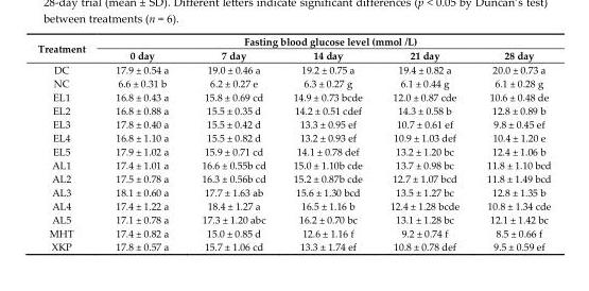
<table><thead><tr><td rowspan="2">Treatment</td><td colspan="5">Fasting blood glucose level (mmol /L)</td></tr><tr><td>0 day</td><td>7 day</td><td>14 day</td><td>21 day</td><td>28 day</td></tr></thead><tbody><tr><td>DC</td><td>17.9 ± 0.54 a</td><td>19.0 ± 0.46 a</td><td>19.2 ± 0.75 a</td><td>19.4 ± 0.82 a</td><td>20.0 ± 0.73 a</td></tr><tr><td>NC</td><td>6.6 ± 0.31 b</td><td>6.2 ± 0.27 e</td><td>6.3 ± 0.27 g</td><td>6.1 ± 0.44 g</td><td>6.1 ± 0.28 g</td></tr><tr><td>EL1</td><td>16.8 ± 0.43 a</td><td>15.8 ± 0.69 cd</td><td>14.9 ± 0.73 bcde</td><td>12.0 ± 0.87 cde</td><td>10.6 ± 0.48 de</td></tr><tr><td>EL2</td><td>16.8 ± 0.88 a</td><td>15.5 ± 0.35 d</td><td>14.2 ± 0.51 cdef</td><td>14.3 ± 0.58 b</td><td>12.8 ± 0.89 b</td></tr><tr><td>EL3</td><td>17.8 ± 0.40 a</td><td>15.5 ± 0.42 d</td><td>13.3 ± 0.95 ef</td><td>10.7 ± 0.61 ef</td><td>9.8 ± 0.45 ef</td></tr><tr><td>EL4</td><td>16.8 ± 1.10 a</td><td>15.5 ± 0.82 d</td><td>13.2 ± 0.93 ef</td><td>10.9 ± 1.03 def</td><td>10.4 ± 1.20 e</td></tr><tr><td>EL5</td><td>17.9 ± 1.02 a</td><td>15.9 ± 0.71 cd</td><td>14.1 ± 0.78 def</td><td>13.2 ± 1.20 bc</td><td>12.4 ± 1.06 b</td></tr><tr><td>AL1</td><td>17.4 ± 1.01 a</td><td>16.6 ± 0.55b cd</td><td>15.0 ± 1.10b cde</td><td>13.7 ± 0.98 bc</td><td>11.8 ± 1.10 bcd</td></tr><tr><td>AL2</td><td>17.5 ± 0.78 a</td><td>16.3 ± 0.56b cd</td><td>15.2 ± 0.87b cde</td><td>12.7 ± 1.07 bcd</td><td>11.8 ± 1.49 bcd</td></tr><tr><td>AL3</td><td>18.1 ± 0.60 a</td><td>17.7 ± 1.63 ab</td><td>15.6 ± 1.30 bcd</td><td>13.5 ± 1.27 bc</td><td>12.8 ± 1.35 b</td></tr><tr><td>AL4</td><td>17.4 ± 1.22 a</td><td>18.4 ± 1.27 a</td><td>16.5 ± 1.16 b</td><td>12.4 ± 1.28 bcde</td><td>10.8 ± 1.34 cde</td></tr><tr><td>AL5</td><td>17.1 ± 0.78 a</td><td>17.3 ± 1.20 abc</td><td>16.2 ± 0.70 bc</td><td>13.1 ± 1.28 bc</td><td>12.1 ± 1.42 bc</td></tr><tr><td>MHT</td><td>17.4 ± 0.82 a</td><td>15.0 ± 0.85 d</td><td>12.6 ± 1.16 f</td><td>9.2 ± 0.74 f</td><td>8.5 ± 0.66 f</td></tr><tr><td>XKP</td><td>17.8 ± 0.57 a</td><td>15.7 ± 1.06 cd</td><td>13.3 ± 1.74 ef</td><td>10.8 ± 0.78 def</td><td>9.5 ± 0.59 ef</td></tr></tbody></table>